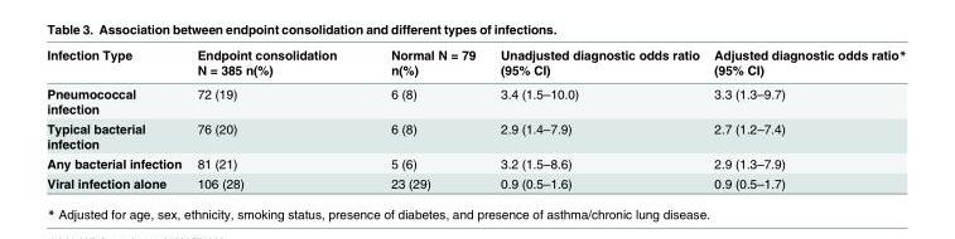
<table><thead><tr><td>Infection Type</td><td>Endpoint consolidation N = 385 n(%)</td><td>Normal N = 79 n(%)</td><td>Unadjusted diagnostic odds ratio (95% CI)</td><td>Adjusted diagnostic odds ratio* (95% CI)</td></tr></thead><tbody><tr><td>Pneumococcal infection</td><td>72 (19)</td><td>6 (8)</td><td>3.4 (1.5–10.0)</td><td>3.3 (1.3–9.7)</td></tr><tr><td>Typical bacterial infection</td><td>76 (20)</td><td>6 (8)</td><td>2.9 (1.4–7.9)</td><td>2.7 (1.2–7.4)</td></tr><tr><td>Any bacterial infection</td><td>81 (21)</td><td>5 (6)</td><td>3.2 (1.5–8.6)</td><td>2.9 (1.3–7.9)</td></tr><tr><td>Viral infection alone</td><td>106 (28)</td><td>23 (29)</td><td>0.9 (0.5–1.6)</td><td>0.9 (0.5–1.7)</td></tr></tbody></table>